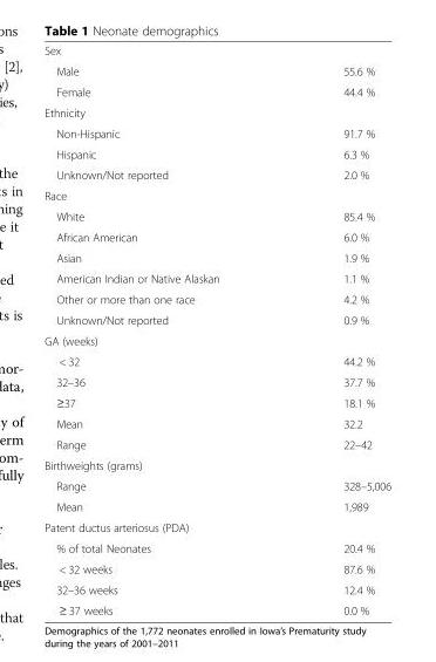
<table><tbody><tr><td colspan="2">Sex</td></tr><tr><td>Male</td><td>55.6 %</td></tr><tr><td>Female</td><td>44.4 %</td></tr><tr><td colspan="2">Ethnicity</td></tr><tr><td>Non-Hispanic</td><td>91.7 %</td></tr><tr><td>Hispanic</td><td>6.3 %</td></tr><tr><td>Unknown/Not reported</td><td>2.0 %</td></tr><tr><td colspan="2">Race</td></tr><tr><td>White</td><td>85.4 %</td></tr><tr><td>African American</td><td>6.0 %</td></tr><tr><td>Asian</td><td>1.9 %</td></tr><tr><td>American Indian or Native Alaskan</td><td>1.1 %</td></tr><tr><td>Other or more than one race</td><td>4.2 %</td></tr><tr><td>Unknown/Not reported</td><td>0.9 %</td></tr><tr><td colspan="2">GA (weeks)</td></tr><tr><td>&lt; 32</td><td>44.2 %</td></tr><tr><td>32–36</td><td>37.7 %</td></tr><tr><td>≥37</td><td>18.1 %</td></tr><tr><td>Mean</td><td>32.2</td></tr><tr><td>Range</td><td>22–42</td></tr><tr><td colspan="2">Birthweights (grams)</td></tr><tr><td>Range</td><td>328–5,006</td></tr><tr><td>Mean</td><td>1,989</td></tr><tr><td colspan="2">Patent ductus arteriosus (PDA)</td></tr><tr><td>% of total Neonates</td><td>20.4 %</td></tr><tr><td>&lt; 32 weeks</td><td>87.6 %</td></tr><tr><td>32–36 weeks</td><td>12.4 %</td></tr><tr><td>≥ 37 weeks</td><td>0.0 %</td></tr></tbody></table>